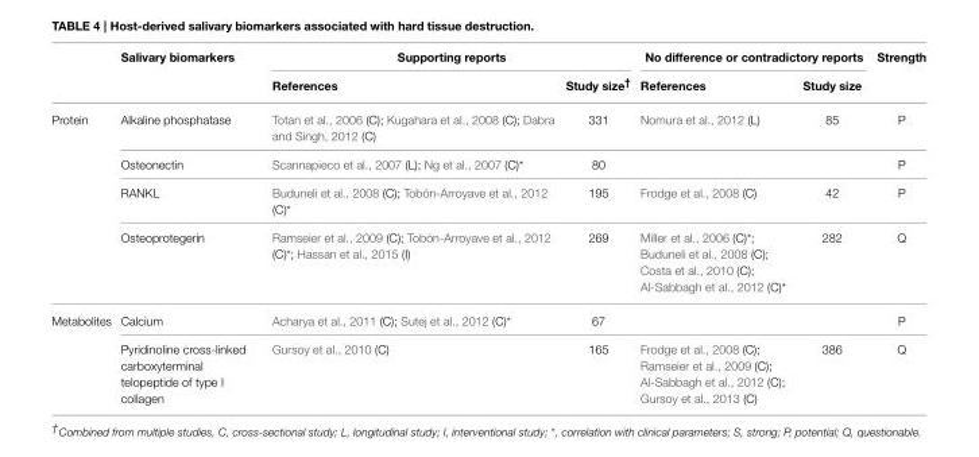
<table><thead><tr><td rowspan="2"></td><td rowspan="2">Salivary biomarkers</td><td colspan="2">Supporting reports</td><td colspan="2">No difference or contradictory reports</td><td rowspan="2">Strength</td></tr><tr><td>References</td><td>Study size<sup>†</sup></td><td>References</td><td>Study size</td></tr></thead><tbody><tr><td rowspan="4">Protein</td><td>Alkaline phosphatase</td><td>Totan et al., 2006 (C); Kugahara et al., 2008 (C); Dabra and Singh, 2012 (C)</td><td>331</td><td>Nomura et al., 2012 (L)</td><td>85</td><td>P</td></tr><tr><td>Osteonectin</td><td>Scannapieco et al., 2007 (L); Ng et al., 2007 (C)*</td><td>80</td><td></td><td></td><td>P</td></tr><tr><td>RANKL</td><td>Buduneli et al., 2008 (C); Tobón-Arroyave et al., 2012 (C)*</td><td>195</td><td>Frodge et al., 2008 (C)</td><td>42</td><td>P</td></tr><tr><td>Osteoprotegerin</td><td>Ramseier et al., 2009 (C); Tobón-Arroyave et al., 2012 (C)*; Hassan et al., 2015 (I)</td><td>269</td><td>Miller et al., 2006 (C)*; Buduneli et al., 2008 (C); Costa et al., 2010 (C); Al-Sabbagh et al., 2012 (C)*</td><td>282</td><td>Q</td></tr><tr><td rowspan="2">Metabolites</td><td>Calcium</td><td>Acharya et al., 2011 (C); Sutej et al., 2012 (C)*</td><td>67</td><td></td><td></td><td>P</td></tr><tr><td>Pyridinoline cross-linked carboxyterminal telopeptide of type I collagen</td><td>Gursoy et al., 2010 (C)</td><td>165</td><td>Frodge et al., 2008 (C); Ramseier et al., 2009 (C); Al-Sabbagh et al., 2012 (C); Gursoy et al., 2013 (C)</td><td>386</td><td>Q</td></tr></tbody></table>